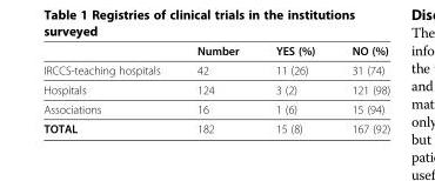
<table><thead><tr><td></td><td>Number</td><td>YES (%)</td><td>NO (%)</td></tr></thead><tbody><tr><td>IRCCS-teaching hospitals</td><td>42</td><td>11 (26)</td><td>31 (74)</td></tr><tr><td>Hospitals</td><td>124</td><td>3 (2)</td><td>121 (98)</td></tr><tr><td>Associations</td><td>16</td><td>1 (6)</td><td>15 (94)</td></tr><tr><td>TOTAL</td><td>182</td><td>15 (8)</td><td>167 (92)</td></tr></tbody></table>